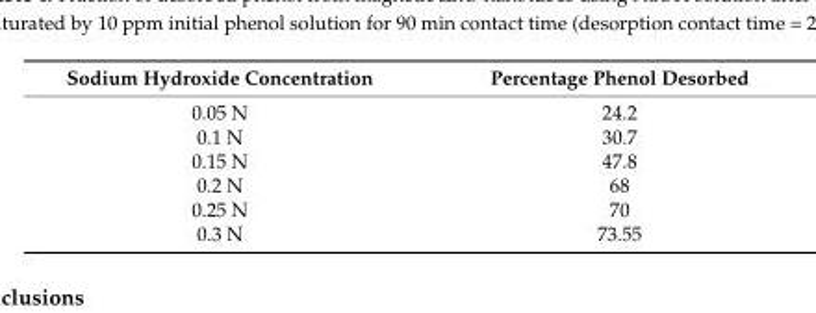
<table><thead><tr><td>Sodium Hydroxide Concentration</td><td>Percentage Phenol Desorbed</td></tr></thead><tbody><tr><td>0.05 N</td><td>24.2</td></tr><tr><td>0.1 N</td><td>30.7</td></tr><tr><td>0.15 N</td><td>47.8</td></tr><tr><td>0.2 N</td><td>68</td></tr><tr><td>0.25 N</td><td>70</td></tr><tr><td>0.3 N</td><td>73.55</td></tr></tbody></table>